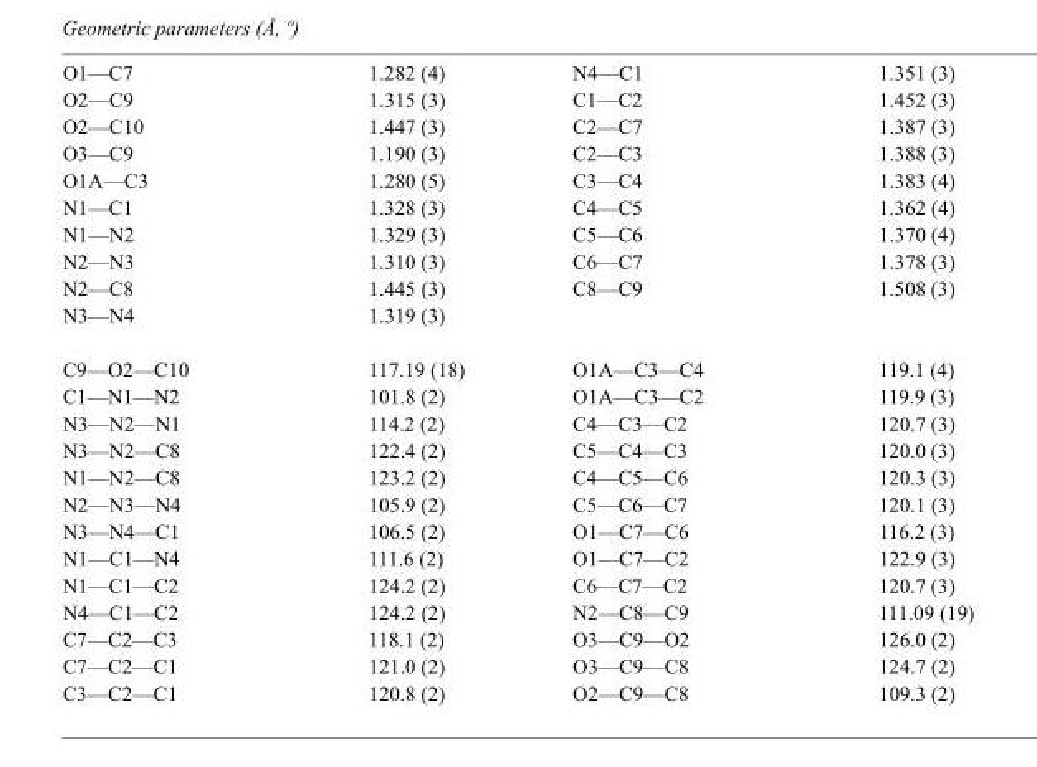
<table><tbody><tr><td>O1—C7</td><td>1.282 (4)</td><td>N4—C1</td><td>1.351 (3)</td></tr><tr><td>O2—C9</td><td>1.315 (3)</td><td>C1—C2</td><td>1.452 (3)</td></tr><tr><td>O2—C10</td><td>1.447 (3)</td><td>C2—C7</td><td>1.387 (3)</td></tr><tr><td>O3—C9</td><td>1.190 (3)</td><td>C2—C3</td><td>1.388 (3)</td></tr><tr><td>O1A—C3</td><td>1.280 (5)</td><td>C3—C4</td><td>1.383 (4)</td></tr><tr><td>N1—C1</td><td>1.328 (3)</td><td>C4—C5</td><td>1.362 (4)</td></tr><tr><td>N1—N2</td><td>1.329 (3)</td><td>C5—C6</td><td>1.370 (4)</td></tr><tr><td>N2—N3</td><td>1.310 (3)</td><td>C6—C7</td><td>1.378 (3)</td></tr><tr><td>N2—C8</td><td>1.445 (3)</td><td>C8—C9</td><td>1.508 (3)</td></tr><tr><td>N3—N4</td><td>1.319 (3)</td><td></td><td></td></tr><tr><td>C9—O2—C10</td><td>117.19 (18)</td><td>O1A—C3—C4</td><td>119.1 (4)</td></tr><tr><td>C1—N1—N2</td><td>101.8 (2)</td><td>O1A—C3—C2</td><td>119.9 (3)</td></tr><tr><td>N3—N2—N1</td><td>114.2 (2)</td><td>C4—C3—C2</td><td>120.7 (3)</td></tr><tr><td>N3—N2—C8</td><td>122.4 (2)</td><td>C5—C4—C3</td><td>120.0 (3)</td></tr><tr><td>N1—N2—C8</td><td>123.2 (2)</td><td>C4—C5—C6</td><td>120.3 (3)</td></tr><tr><td>N2—N3—N4</td><td>105.9 (2)</td><td>C5—C6—C7</td><td>120.1 (3)</td></tr><tr><td>N3—N4—C1</td><td>106.5 (2)</td><td>O1—C7—C6</td><td>116.2 (3)</td></tr><tr><td>N1—C1—N4</td><td>111.6 (2)</td><td>O1—C7—C2</td><td>122.9 (3)</td></tr><tr><td>N1—C1—C2</td><td>124.2 (2)</td><td>C6—C7—C2</td><td>120.7 (3)</td></tr><tr><td>N4—C1—C2</td><td>124.2 (2)</td><td>N2—C8—C9</td><td>111.09 (19)</td></tr><tr><td>C7—C2—C3</td><td>118.1 (2)</td><td>O3—C9—O2</td><td>126.0 (2)</td></tr><tr><td>C7—C2—C1</td><td>121.0 (2)</td><td>O3—C9—C8</td><td>124.7 (2)</td></tr><tr><td>C3—C2—C1</td><td>120.8 (2)</td><td>O2—C9—C8</td><td>109.3 (2)</td></tr></tbody></table>